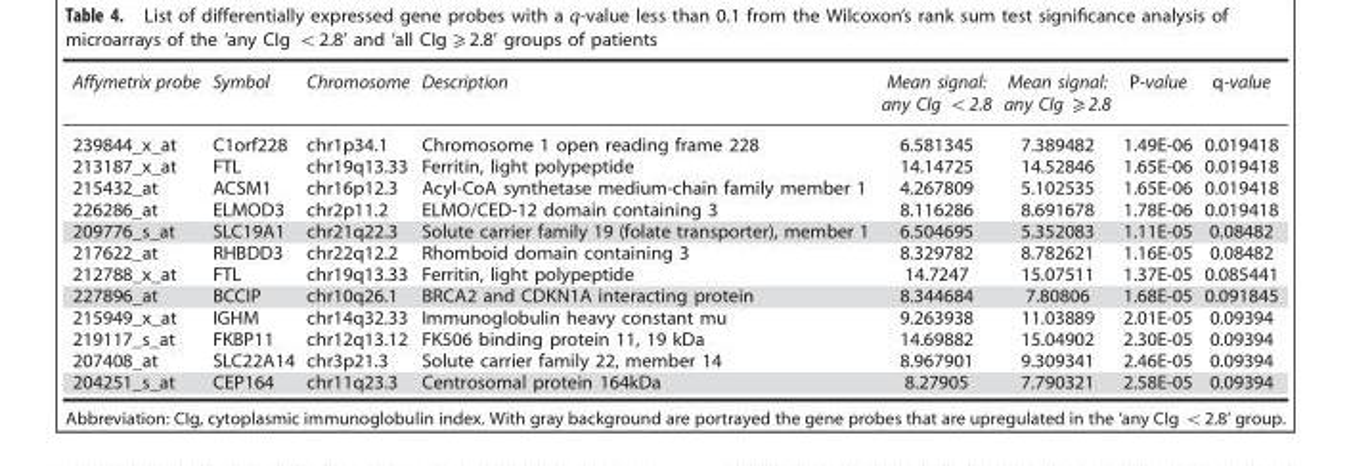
<table><thead><tr><td>Affymetrix probe</td><td>Symbol</td><td>Chromosome</td><td>Description</td><td>Mean signal: any CIg &lt;2.8</td><td>Mean signal: any CIg ⩾ 2.8</td><td>P-value</td><td>q-value</td></tr></thead><tbody><tr><td>239844_x_at</td><td>C1orf228</td><td>chr1p34.1</td><td>Chromosome 1 open reading frame 228</td><td>6.581345</td><td>7.389482</td><td>1.49E-06</td><td>0.019418</td></tr><tr><td>213187_x_at</td><td>FTL</td><td>chr19q13.33</td><td>Ferritin, light polypeptide</td><td>14.14725</td><td>14.52846</td><td>1.65E-06</td><td>0.019418</td></tr><tr><td>215432_at</td><td>ACSM1</td><td>chr16p12.3</td><td>Acyl-CoA synthetase medium-chain family member 1</td><td>4.267809</td><td>5.102535</td><td>1.65E-06</td><td>0.019418</td></tr><tr><td>226286_at</td><td>ELMOD3</td><td>chr2p11.2</td><td>ELMO/CED-12 domain containing 3</td><td>8.116286</td><td>8.691678</td><td>1.78E-06</td><td>0.019418</td></tr><tr><td>209776_s_at</td><td>SLC19A1</td><td>chr21q22.3</td><td>Solute carrier family 19 (folate transporter), member 1</td><td>6.504695</td><td>5.352083</td><td>1.11E-05</td><td>0.08482</td></tr><tr><td>217622_at</td><td>RHBDD3</td><td>chr22q12.2</td><td>Rhomboid domain containing 3</td><td>8.329782</td><td>8.782621</td><td>1.16E-05</td><td>0.08482</td></tr><tr><td>212788_x_at</td><td>FTL</td><td>chr19q13.33</td><td>Ferritin, light polypeptide</td><td>14.7247</td><td>15.07511</td><td>1.37E-05</td><td>0.085441</td></tr><tr><td>227896_at</td><td>BCCIP</td><td>chr10q26.1</td><td>BRCA2 and CDKN1A interacting protein</td><td>8.344684</td><td>7.80806</td><td>1.68E-05</td><td>0.091845</td></tr><tr><td>215949_x_at</td><td>IGHM</td><td>chr14q32.33</td><td>Immunoglobulin heavy constant mu</td><td>9.263938</td><td>11.03889</td><td>2.01E-05</td><td>0.09394</td></tr><tr><td>219117_s_at</td><td>FKBP11</td><td>chr12q13.12</td><td>FK506 binding protein 11, 19 kDa</td><td>14.69882</td><td>15.04902</td><td>2.30E-05</td><td>0.09394</td></tr><tr><td>207408_at</td><td>SLC22A14</td><td>chr3p21.3</td><td>Solute carrier family 22, member 14</td><td>8.967901</td><td>9.309341</td><td>2.46E-05</td><td>0.09394</td></tr><tr><td>204251_s_at</td><td>CEP164</td><td>chr11q23.3</td><td>Centrosomal protein 164kDa</td><td>8.27905</td><td>7.790321</td><td>2.58E-05</td><td>0.09394</td></tr></tbody></table>